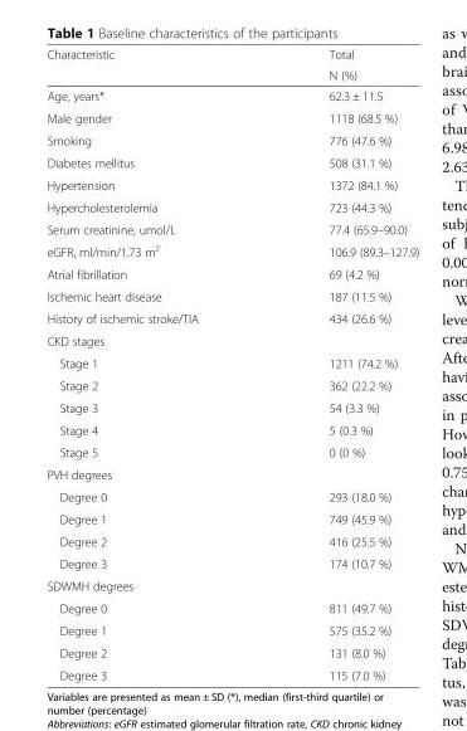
<table><thead><tr><td rowspan="2">Characteristic</td><td rowspan="2">Total N (%)</td></tr><tr></tr></thead><tbody><tr><td>Age, years*</td><td>62.3 ± 11.5</td></tr><tr><td>Male gender</td><td>1118 (68.5 %)</td></tr><tr><td>Smoking</td><td>776 (47.6 %)</td></tr><tr><td>Diabetes mellitus</td><td>508 (31.1 %)</td></tr><tr><td>Hypertension</td><td>1372 (84.1 %)</td></tr><tr><td>Hypercholesterolemia</td><td>723 (44.3 %)</td></tr><tr><td>Serum creatinine, umol/L</td><td>77.4 (65.9–90.0)</td></tr><tr><td>eGFR, ml/min/1.73 m<sup>2</sup></td><td>106.9 (89.3–127.9)</td></tr><tr><td>Atrial fibrillation</td><td>69 (4.2 %)</td></tr><tr><td>Ischemic heart disease</td><td>187 (11.5 %)</td></tr><tr><td>History of ischemic stroke/TIA</td><td>434 (26.6 %)</td></tr><tr><td colspan="2">CKD stages</td></tr><tr><td>Stage 1</td><td>1211 (74.2 %)</td></tr><tr><td>Stage 2</td><td>362 (22.2 %)</td></tr><tr><td>Stage 3</td><td>54 (3.3 %)</td></tr><tr><td>Stage 4</td><td>5 (0.3 %)</td></tr><tr><td>Stage 5</td><td>0 (0 %)</td></tr><tr><td colspan="2">PVH degrees</td></tr><tr><td>Degree 0</td><td>293 (18.0 %)</td></tr><tr><td>Degree 1</td><td>749 (45.9 %)</td></tr><tr><td>Degree 2</td><td>416 (25.5 %)</td></tr><tr><td>Degree 3</td><td>174 (10.7 %)</td></tr><tr><td colspan="2">SDWMH degrees</td></tr><tr><td>Degree 0</td><td>811 (49.7 %)</td></tr><tr><td>Degree 1</td><td>575 (35.2 %)</td></tr><tr><td>Degree 2</td><td>131 (8.0 %)</td></tr><tr><td>Degree 3</td><td>115 (7.0 %)</td></tr></tbody></table>